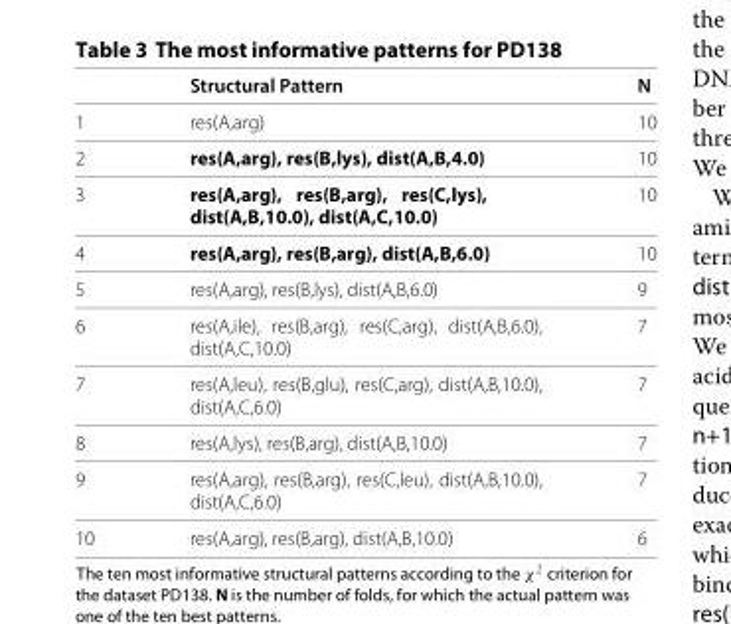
<table><thead><tr><td></td><td>Structural Pattern</td><td>N</td></tr></thead><tbody><tr><td>1</td><td>res(A,arg)</td><td>10</td></tr><tr><td>2</td><td>res(A,arg), res(B,lys), dist(A,B,4.0)</td><td>10</td></tr><tr><td>3</td><td>res(A,arg), res(B,arg), res(C,lys), dist(A,B,10.0), dist(A,C,10.0)</td><td>10</td></tr><tr><td>4</td><td>res(A,arg), res(B,arg), dist(A,B,6.0)</td><td>10</td></tr><tr><td>5</td><td>res(A,arg), res(B,lys), dist(A,B,6.0)</td><td>9</td></tr><tr><td>6</td><td>res(A,ile), res(B,arg), res(C,arg), dist(A,B,6.0), dist(A,C,10.0)</td><td>7</td></tr><tr><td>7</td><td>res(A,leu), res(B,glu), res(C,arg), dist(A,B,10.0), dist(A,C,6.0)</td><td>7</td></tr><tr><td>8</td><td>res(A,lys), res(B,arg), dist(A,B,10.0)</td><td>7</td></tr><tr><td>9</td><td>res(A,arg), res(B,arg), res(C,leu), dist(A,B,10.0), dist(A,C,6.0)</td><td>7</td></tr><tr><td>10</td><td>res(A,arg), res(B,arg), dist(A,B,10.0)</td><td>6</td></tr></tbody></table>